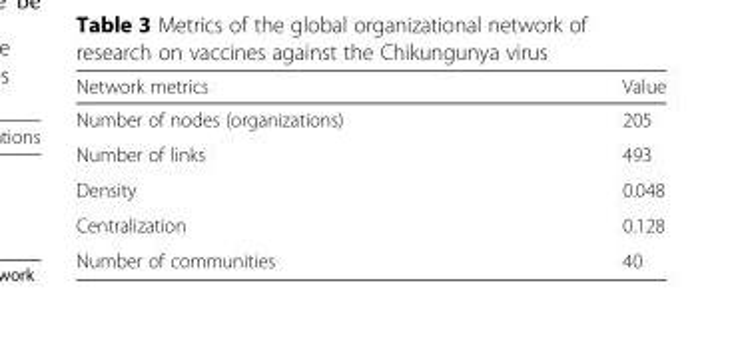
<table><thead><tr><td>Network metrics</td><td>Value</td></tr></thead><tbody><tr><td>Number of nodes (organizations)</td><td>205</td></tr><tr><td>Number of links</td><td>493</td></tr><tr><td>Density</td><td>0.048</td></tr><tr><td>Centralization</td><td>0.128</td></tr><tr><td>Number of communities</td><td>40</td></tr></tbody></table>